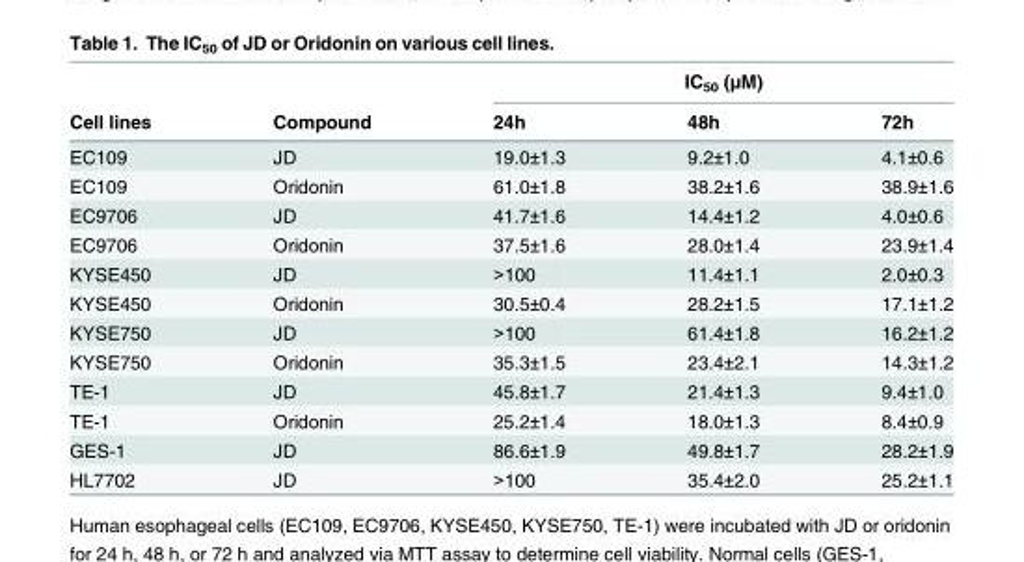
<table><thead><tr><td rowspan="2">Cell lines</td><td rowspan="2">Compound</td><td colspan="3">IC<sub>50</sub> (μM)</td></tr><tr><td>24h</td><td>48h</td><td>72h</td></tr></thead><tbody><tr><td>EC109</td><td>JD</td><td>19.0±1.3</td><td>9.2±1.0</td><td>4.1±0.6</td></tr><tr><td>EC109</td><td>Oridonin</td><td>61.0±1.8</td><td>38.2±1.6</td><td>38.9±1.6</td></tr><tr><td>EC9706</td><td>JD</td><td>41.7±1.6</td><td>14.4±1.2</td><td>4.0±0.6</td></tr><tr><td>EC9706</td><td>Oridonin</td><td>37.5±1.6</td><td>28.0±1.4</td><td>23.9±1.4</td></tr><tr><td>KYSE450</td><td>JD</td><td>&gt;100</td><td>11.4±1.1</td><td>2.0±0.3</td></tr><tr><td>KYSE450</td><td>Oridonin</td><td>30.5±0.4</td><td>28.2±1.5</td><td>17.1±1.2</td></tr><tr><td>KYSE750</td><td>JD</td><td>&gt;100</td><td>61.4±1.8</td><td>16.2±1.2</td></tr><tr><td>KYSE750</td><td>Oridonin</td><td>35.3±1.5</td><td>23.4±2.1</td><td>14.3±1.2</td></tr><tr><td>TE-1</td><td>JD</td><td>45.8±1.7</td><td>21.4±1.3</td><td>9.4±1.0</td></tr><tr><td>TE-1</td><td>Oridonin</td><td>25.2±1.4</td><td>18.0±1.3</td><td>8.4±0.9</td></tr><tr><td>GES-1</td><td>JD</td><td>86.6±1.9</td><td>49.8±1.7</td><td>28.2±1.9</td></tr><tr><td>HL7702</td><td>JD</td><td>&gt;100</td><td>35.4±2.0</td><td>25.2±1.1</td></tr></tbody></table>